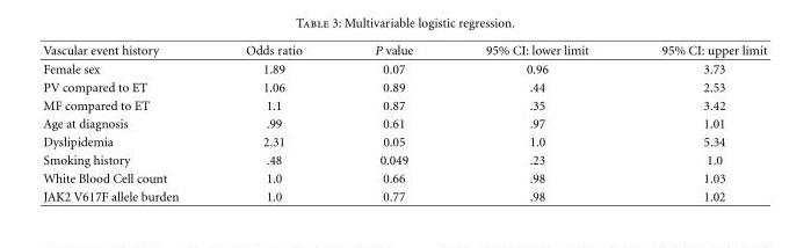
<table><thead><tr><td>Vascular event history</td><td>Odds ratio</td><td>P value</td><td>95% CI: lower limit</td><td>95% CI: upper limit</td></tr></thead><tbody><tr><td>Female sex</td><td>1.89</td><td>0.07</td><td>0.96</td><td>3.73</td></tr><tr><td>PV compared to ET</td><td>1.06</td><td>0.89</td><td>.44</td><td>2.53</td></tr><tr><td>MF compared to ET</td><td>1.1</td><td>0.87</td><td>.35</td><td>3.42</td></tr><tr><td>Age at diagnosis</td><td>.99</td><td>0.61</td><td>.97</td><td>1.01</td></tr><tr><td>Dyslipidemia</td><td>2.31</td><td>0.05</td><td>1.0</td><td>5.34</td></tr><tr><td>Smoking history</td><td>.48</td><td>0.049</td><td>.23</td><td>1.0</td></tr><tr><td>White Blood Cell count</td><td>1.0</td><td>0.66</td><td>.98</td><td>1.03</td></tr><tr><td>JAK2 V617F allele burden</td><td>1.0</td><td>0.77</td><td>.98</td><td>1.02</td></tr></tbody></table>